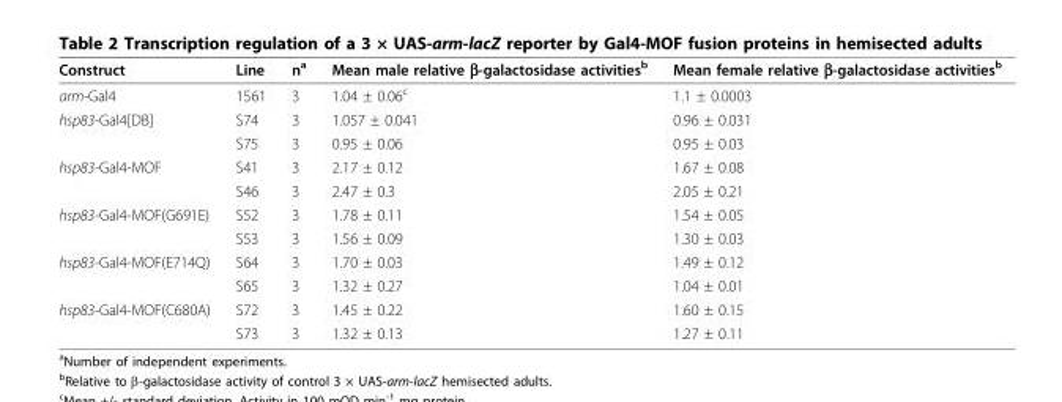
<table><thead><tr><td>Construct</td><td>Line</td><td>n<sup>a</sup></td><td>Mean male relative β-galactosidase activities<sup>b</sup></td><td>Mean female relative β-galactosidase activities<sup>b</sup></td></tr></thead><tbody><tr><td>arm-Gal4</td><td>1561</td><td>3</td><td>1.04 ± 0.06<sup>c</sup></td><td>1.1 ± 0.0003</td></tr><tr><td rowspan="2">hsp83-Gal4[DB]</td><td>S74</td><td>3</td><td>1.057 ± 0.041</td><td>0.96 ± 0.031</td></tr><tr><td>S75</td><td>3</td><td>0.95 ± 0.06</td><td>0.95 ± 0.03</td></tr><tr><td rowspan="2">hsp83-Gal4-MOF</td><td>S41</td><td>3</td><td>2.17 ± 0.12</td><td>1.67 ± 0.08</td></tr><tr><td>S46</td><td>3</td><td>2.47 ± 0.3</td><td>2.05 ± 0.21</td></tr><tr><td rowspan="2">hsp83-Gal4-MOF(G691E)</td><td>S52</td><td>3</td><td>1.78 ± 0.11</td><td>1.54 ± 0.05</td></tr><tr><td>S53</td><td>3</td><td>1.56 ± 0.09</td><td>1.30 ± 0.03</td></tr><tr><td rowspan="2">hsp83-Gal4-MOF(E714Q)</td><td>S64</td><td>3</td><td>1.70 ± 0.03</td><td>1.49 ± 0.12</td></tr><tr><td>S65</td><td>3</td><td>1.32 ± 0.27</td><td>1.04 ± 0.01</td></tr><tr><td rowspan="2">hsp83-Gal4-MOF(C680A)</td><td>S72</td><td>3</td><td>1.45 ± 0.22</td><td>1.60 ± 0.15</td></tr><tr><td>S73</td><td>3</td><td>1.32 ± 0.13</td><td>1.27 ± 0.11</td></tr></tbody></table>